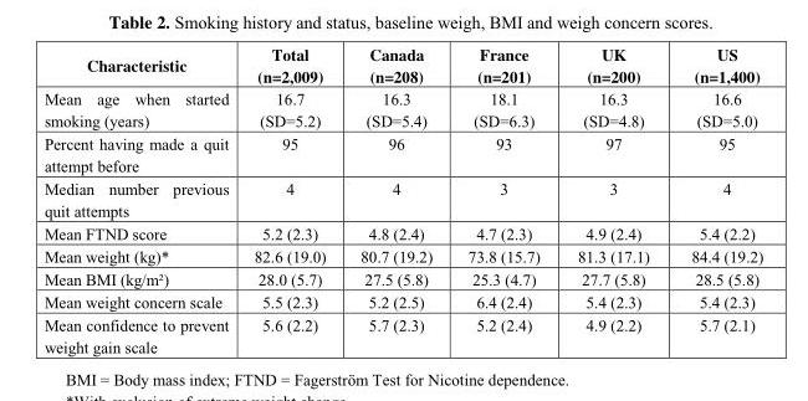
<table><thead><tr><td>Characteristic</td><td>Total (n=2,009)</td><td>Canada (n=208)</td><td>France (n=201)</td><td>UK (n=200)</td><td>US (n=1,400)</td></tr></thead><tbody><tr><td>Mean age when started smoking (years)</td><td>16.7 (SD=5.2)</td><td>16.3 (SD=5.4)</td><td>18.1 (SD=6.3)</td><td>16.3 (SD=4.8)</td><td>16.6 (SD=5.0)</td></tr><tr><td>Percent having made a quit attempt before</td><td>95</td><td>96</td><td>93</td><td>97</td><td>95</td></tr><tr><td>Median number previous quit attempts</td><td>4</td><td>4</td><td>3</td><td>3</td><td>4</td></tr><tr><td>Mean FTND score</td><td>5.2 (2.3)</td><td>4.8 (2.4)</td><td>4.7 (2.3)</td><td>4.9 (2.4)</td><td>5.4 (2.2)</td></tr><tr><td>Mean weight (kg)*</td><td>82.6 (19.0)</td><td>80.7 (19.2)</td><td>73.8 (15.7)</td><td>81.3 (17.1)</td><td>84.4 (19.2)</td></tr><tr><td>Mean BMI (kg/m²)</td><td>28.0 (5.7)</td><td>27.5 (5.8)</td><td>25.3 (4.7)</td><td>27.7 (5.8)</td><td>28.5 (5.8)</td></tr><tr><td>Mean weight concern scale</td><td>5.5 (2.3)</td><td>5.2 (2.5)</td><td>6.4 (2.4)</td><td>5.4 (2.3)</td><td>5.4 (2.3)</td></tr><tr><td>Mean confidence to prevent weight gain scale</td><td>5.6 (2.2)</td><td>5.7 (2.3)</td><td>5.2 (2.4)</td><td>4.9 (2.2)</td><td>5.7 (2.1)</td></tr></tbody></table>